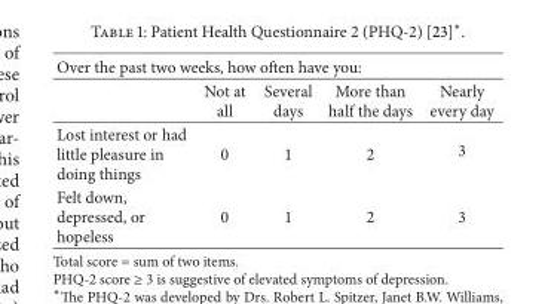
<table><thead><tr><td colspan="5">Over the past two weeks, how often have you:</td></tr><tr><td></td><td>Not at all</td><td>Several days</td><td>More than half the days</td><td>Nearly every day</td></tr></thead><tbody><tr><td>Lost interest or had little pleasure in doing things</td><td>0</td><td>1</td><td>2</td><td>3</td></tr><tr><td>Felt down, depressed, or hopeless</td><td>0</td><td>1</td><td>2</td><td>3</td></tr></tbody></table>